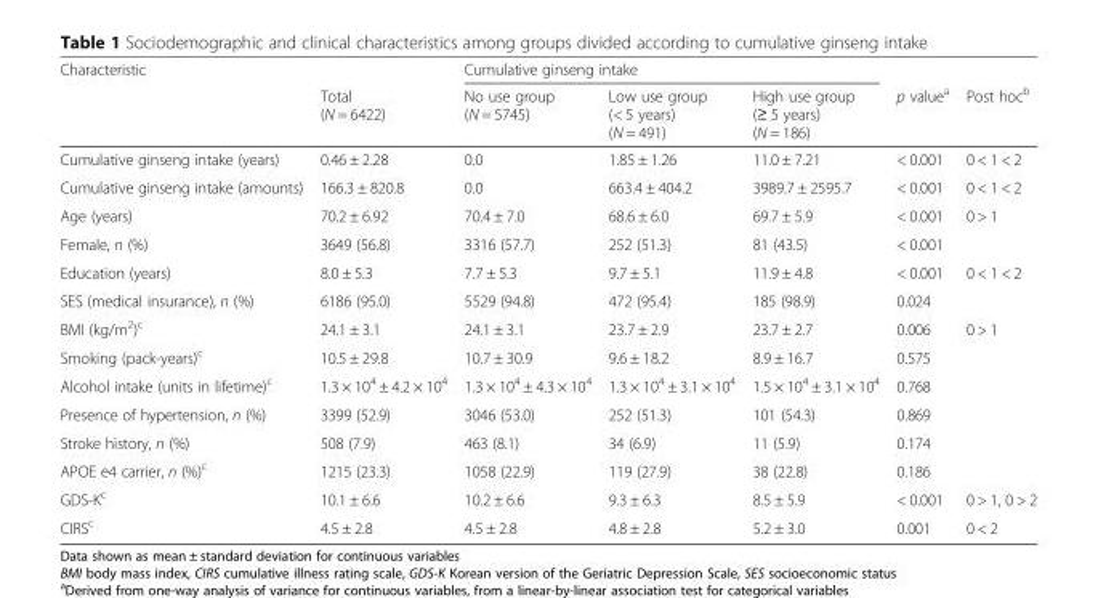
<table><thead><tr><td rowspan="2">Characteristic</td><td rowspan="2">Total (N = 6422)</td><td colspan="3">Cumulative ginseng intake</td><td rowspan="2">p value<sup>a</sup></td><td rowspan="2">Post hoc<sup>b</sup></td></tr><tr><td>No use group (N = 5745)</td><td>Low use group (&lt; 5 years) (N = 491)</td><td>High use group (≥ 5 years) (N = 186)</td></tr></thead><tbody><tr><td>Cumulative ginseng intake (years)</td><td>0.46 ± 2.28</td><td>0.0</td><td>1.85 ± 1.26</td><td>11.0 ± 7.21</td><td>&lt; 0.001</td><td>0 &lt; 1 &lt; 2</td></tr><tr><td>Cumulative ginseng intake (amounts)</td><td>166.3 ± 820.8</td><td>0.0</td><td>663.4 ± 404.2</td><td>3989.7 ± 2595.7</td><td>&lt; 0.001</td><td>0 &lt; 1 &lt; 2</td></tr><tr><td>Age (years)</td><td>70.2 ± 6.92</td><td>70.4 ± 7.0</td><td>68.6 ± 6.0</td><td>69.7 ± 5.9</td><td>&lt; 0.001</td><td>0 &gt; 1</td></tr><tr><td>Female, n (%)</td><td>3649 (56.8)</td><td>3316 (57.7)</td><td>252 (51.3)</td><td>81 (43.5)</td><td>&lt; 0.001</td><td></td></tr><tr><td>Education (years)</td><td>8.0 ± 5.3</td><td>7.7 ± 5.3</td><td>9.7 ± 5.1</td><td>11.9 ± 4.8</td><td>&lt; 0.001</td><td>0 &lt; 1 &lt; 2</td></tr><tr><td>SES (medical insurance), n (%)</td><td>6186 (95.0)</td><td>5529 (94.8)</td><td>472 (95.4)</td><td>185 (98.9)</td><td>0.024</td><td></td></tr><tr><td>BMI (kg/m<sup>2</sup>)<sup>c</sup></td><td>24.1 ± 3.1</td><td>24.1 ± 3.1</td><td>23.7 ± 2.9</td><td>23.7 ± 2.7</td><td>0.006</td><td>0 &gt; 1</td></tr><tr><td>Smoking (pack-years)<sup>c</sup></td><td>10.5 ± 29.8</td><td>10.7 ± 30.9</td><td>9.6 ± 18.2</td><td>8.9 ± 16.7</td><td>0.575</td><td rowspan="5"></td></tr><tr><td>Alcohol intake (units in lifetime)<sup>c</sup></td><td>1.3 × 10<sup>4</sup> ± 4.2 × 10<sup>4</sup></td><td>1.3 × 10<sup>4</sup> ± 4.3 × 10<sup>4</sup></td><td>1.3 × 10<sup>4</sup> ± 3.1 × 10<sup>4</sup></td><td>1.5 × 10<sup>4</sup> ± 3.1 × 10<sup>4</sup></td><td>0.768</td></tr><tr><td>Presence of hypertension, n (%)</td><td>3399 (52.9)</td><td>3046 (53.0)</td><td>252 (51.3)</td><td>101 (54.3)</td><td>0.869</td></tr><tr><td>Stroke history, n (%)</td><td>508 (7.9)</td><td>463 (8.1)</td><td>34 (6.9)</td><td>11 (5.9)</td><td>0.174</td></tr><tr><td>APOE e4 carrier, n (%)<sup>c</sup></td><td>1215 (23.3)</td><td>1058 (22.9)</td><td>119 (27.9)</td><td>38 (22.8)</td><td>0.186</td></tr><tr><td>GDS-K<sup>c</sup></td><td>10.1 ± 6.6</td><td>10.2 ± 6.6</td><td>9.3 ± 6.3</td><td>8.5 ± 5.9</td><td>&lt; 0.001</td><td>0 &gt; 1, 0 &gt; 2</td></tr><tr><td>CIRS<sup>c</sup></td><td>4.5 ± 2.8</td><td>4.5 ± 2.8</td><td>4.8 ± 2.8</td><td>5.2 ± 3.0</td><td>0.001</td><td>0 &lt; 2</td></tr></tbody></table>